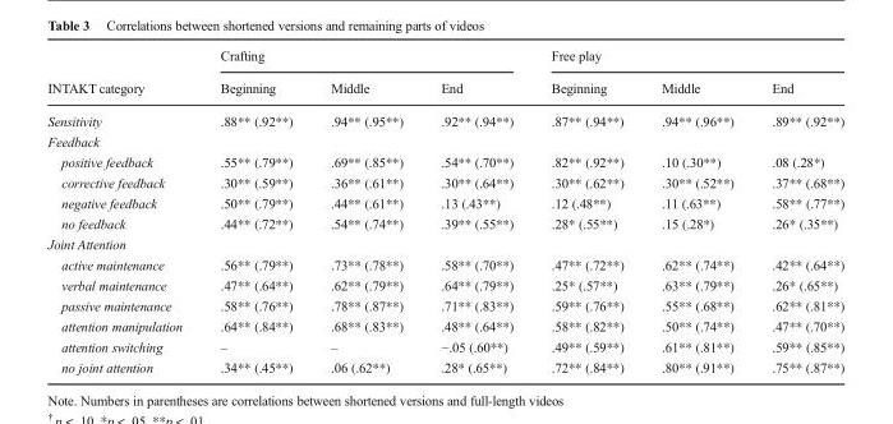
<table><thead><tr><td rowspan="2">INTAKT category</td><td colspan="3">Crafting</td><td colspan="3">Free play</td></tr><tr><td>Beginning</td><td>Middle</td><td>End</td><td>Beginning</td><td>Middle</td><td>End</td></tr></thead><tbody><tr><td>Sensitivity</td><td>.88** (.92**)</td><td>.94** (.95**)</td><td>.92** (.94**)</td><td>.87** (.94**)</td><td>.94** (.96**)</td><td>.89** (.92**)</td></tr><tr><td colspan="7">Feedback</td></tr><tr><td>positive feedback</td><td>.55** (.79**)</td><td>.69** (.85**)</td><td>.54** (.70**)</td><td>.82** (.92**)</td><td>.10 (.30**)</td><td>.08 (.28*)</td></tr><tr><td>corrective feedback</td><td>.30** (.59**)</td><td>.36** (.61**)</td><td>.30** (.64**)</td><td>.30** (.62**)</td><td>.30** (.52**)</td><td>.37** (.68**)</td></tr><tr><td>negative feedback</td><td>.50** (.79**)</td><td>.44** (.61**)</td><td>.13 (.43**)</td><td>.12 (.48**)</td><td>.11 (.63**)</td><td>.58** (.77**)</td></tr><tr><td>no feedback</td><td>.44** (.72**)</td><td>.54** (.74**)</td><td>.39** (.55**)</td><td>.28* (.55**)</td><td>.15 (.28*)</td><td>.26* (.35**)</td></tr><tr><td colspan="7">Joint Attention</td></tr><tr><td>active maintenance</td><td>.56** (.79**)</td><td>.73** (.78**)</td><td>.58** (.70**)</td><td>.47** (.72**)</td><td>.62** (.74**)</td><td>.42** (.64**)</td></tr><tr><td>verbal maintenance</td><td>.47** (.64**)</td><td>.62** (.79**)</td><td>.64** (.79**)</td><td>.25* (.57**)</td><td>.63** (.79**)</td><td>.26* (.65**)</td></tr><tr><td>passive maintenance</td><td>.58** (.76**)</td><td>.78** (.87**)</td><td>.71** (.83**)</td><td>.59** (.76**)</td><td>.55** (.68**)</td><td>.62** (.81**)</td></tr><tr><td>attention manipulation</td><td>.64** (.84**)</td><td>.68** (.83**)</td><td>.48** (.64**)</td><td>.58** (.82**)</td><td>.50** (.74**)</td><td>.47** (.70**)</td></tr><tr><td>attention switching</td><td>–</td><td>–</td><td>−.05 (.60**)</td><td>.49** (.59**)</td><td>.61** (.81**)</td><td>.59** (.85**)</td></tr><tr><td>no joint attention</td><td>.34** (.45**)</td><td>.06 (.62**)</td><td>.28* (.65**)</td><td>.72** (.84**)</td><td>.80** (.91**)</td><td>.75** (.87**)</td></tr></tbody></table>